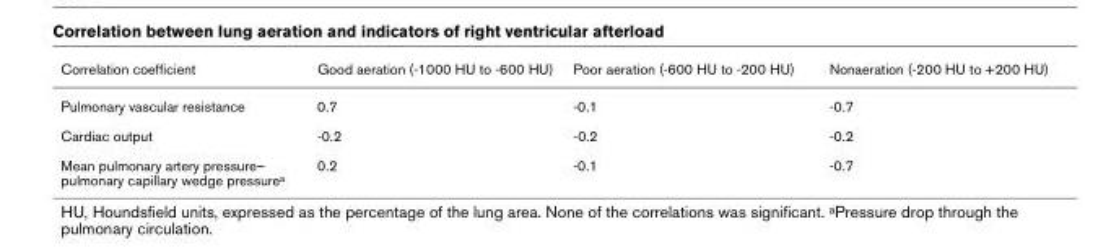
<table><thead><tr><td>Correlation coefficient</td><td>Good aeration (-1000 HU to -600 HU)</td><td>Poor aeration (-600 HU to -200 HU)</td><td>Nonaeration (-200 HU to +200 HU)</td></tr></thead><tbody><tr><td>Pulmonary vascular resistance</td><td>0.7</td><td>-0.1</td><td>-0.7</td></tr><tr><td>Cardiac output</td><td>-0.2</td><td>-0.2</td><td>-0.2</td></tr><tr><td>Mean pulmonary artery pressure– pulmonary capillary wedge pressurea</td><td>0.2</td><td>-0.1</td><td>-0.7</td></tr></tbody></table>